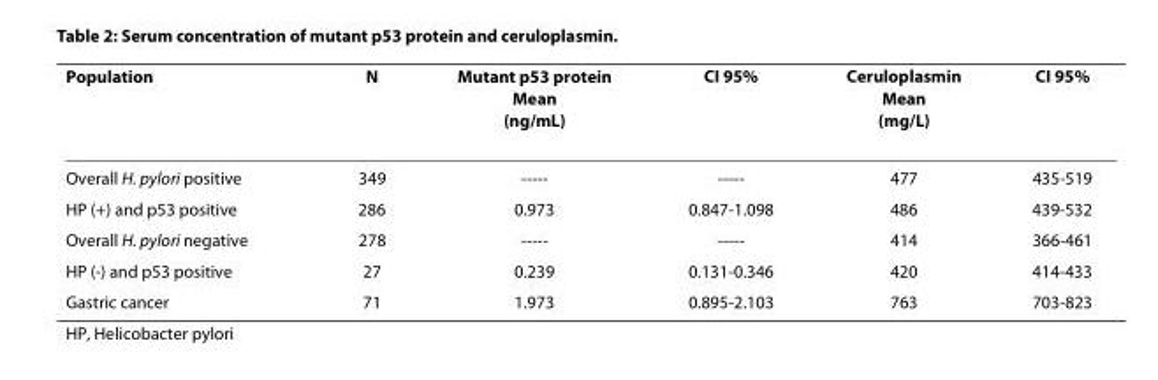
<table><thead><tr><td>Population</td><td>N</td><td>Mutant p53 protein Mean (ng/mL)</td><td>CI 95%</td><td>Ceruloplasmin Mean (mg/L)</td><td>CI 95%</td></tr></thead><tbody><tr><td>Overall H. pylori positive</td><td>349</td><td>-----</td><td>-----</td><td>477</td><td>435-519</td></tr><tr><td>HP (+) and p53 positive</td><td>286</td><td>0.973</td><td>0.847-1.098</td><td>486</td><td>439-532</td></tr><tr><td>Overall H. pylori negative</td><td>278</td><td>-----</td><td>-----</td><td>414</td><td>366-461</td></tr><tr><td>HP (-) and p53 positive</td><td>27</td><td>0.239</td><td>0.131-0.346</td><td>420</td><td>414-433</td></tr><tr><td>Gastric cancer</td><td>71</td><td>1.973</td><td>0.895-2.103</td><td>763</td><td>703-823</td></tr></tbody></table>